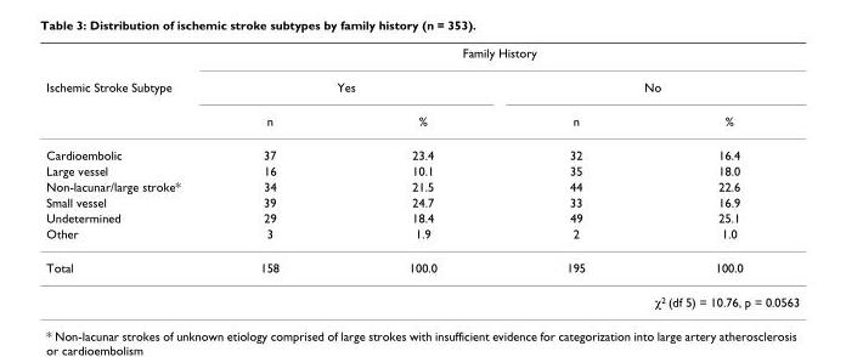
<table><thead><tr><td rowspan="3">Ischemic Stroke Subtype</td><td colspan="4">Family History</td></tr><tr><td colspan="2">Yes</td><td colspan="2">No</td></tr><tr><td>n</td><td>%</td><td>n</td><td>%</td></tr></thead><tbody><tr><td>Cardioembolic</td><td>37</td><td>23.4</td><td>32</td><td>16.4</td></tr><tr><td>Large vessel</td><td>16</td><td>10.1</td><td>35</td><td>18.0</td></tr><tr><td>Non-lacunar/large stroke*</td><td>34</td><td>21.5</td><td>44</td><td>22.6</td></tr><tr><td>Small vessel</td><td>39</td><td>24.7</td><td>33</td><td>16.9</td></tr><tr><td>Undetermined</td><td>29</td><td>18.4</td><td>49</td><td>25.1</td></tr><tr><td>Other</td><td>3</td><td>1.9</td><td>2</td><td>1.0</td></tr><tr><td>Total</td><td>158</td><td>100.0</td><td>195</td><td>100.0</td></tr><tr><td colspan="5">χ<sup>2</sup> (df 5) = 10.76, p = 0.0563</td></tr></tbody></table>